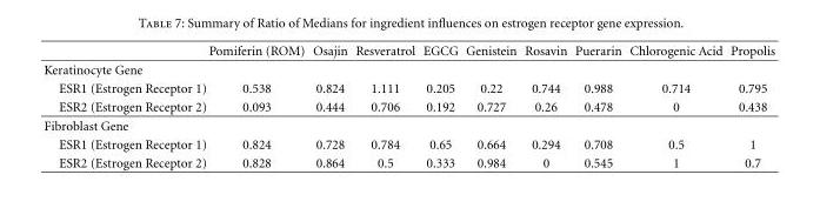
<table><thead><tr><td></td><td>Pomiferin (ROM)</td><td>Osajin</td><td>Resveratrol</td><td>EGCG</td><td>Genistein</td><td>Rosavin</td><td>Puerarin</td><td>Chlorogenic Acid</td><td>Propolis</td></tr></thead><tbody><tr><td colspan="10">Keratinocyte Gene</td></tr><tr><td>ESR1 (Estrogen Receptor 1)</td><td>0.538</td><td>0.824</td><td>1.111</td><td>0.205</td><td>0.22</td><td>0.744</td><td>0.988</td><td>0.714</td><td>0.795</td></tr><tr><td>ESR2 (Estrogen Receptor 2)</td><td>0.093</td><td>0.444</td><td>0.706</td><td>0.192</td><td>0.727</td><td>0.26</td><td>0.478</td><td>0</td><td>0.438</td></tr><tr><td colspan="10">Fibroblast Gene</td></tr><tr><td>ESR1 (Estrogen Receptor 1)</td><td>0.824</td><td>0.728</td><td>0.784</td><td>0.65</td><td>0.664</td><td>0.294</td><td>0.708</td><td>0.5</td><td>1</td></tr><tr><td>ESR2 (Estrogen Receptor 2)</td><td>0.828</td><td>0.864</td><td>0.5</td><td>0.333</td><td>0.984</td><td>0</td><td>0.545</td><td>1</td><td>0.7</td></tr></tbody></table>